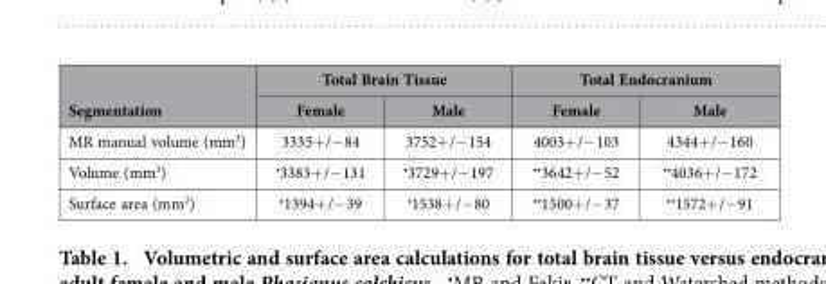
<table><thead><tr><td rowspan="2">Segmentation</td><td colspan="2">Total Brain Tissue</td><td colspan="2">Total Endocranium</td></tr><tr><td>Female</td><td>Male</td><td>Female</td><td>Male</td></tr></thead><tbody><tr><td>MR manual volume (mm<sup>3</sup>)</td><td>3335+ /− 84</td><td>3752+ /− 154</td><td>4003+ /− 103</td><td>4344+ /− 160</td></tr><tr><td>Volume (mm<sup>3</sup>)</td><td>•3383+ /− 131</td><td>•3729+ /− 197</td><td>••3642+ /− 52</td><td>••4036+ /− 172</td></tr><tr><td>Surface area (mm<sup>2</sup>)</td><td>•1394+ /− 39</td><td>•1538+ /− 80</td><td>••1500+ /− 37</td><td>••1572+ /− 91</td></tr></tbody></table>